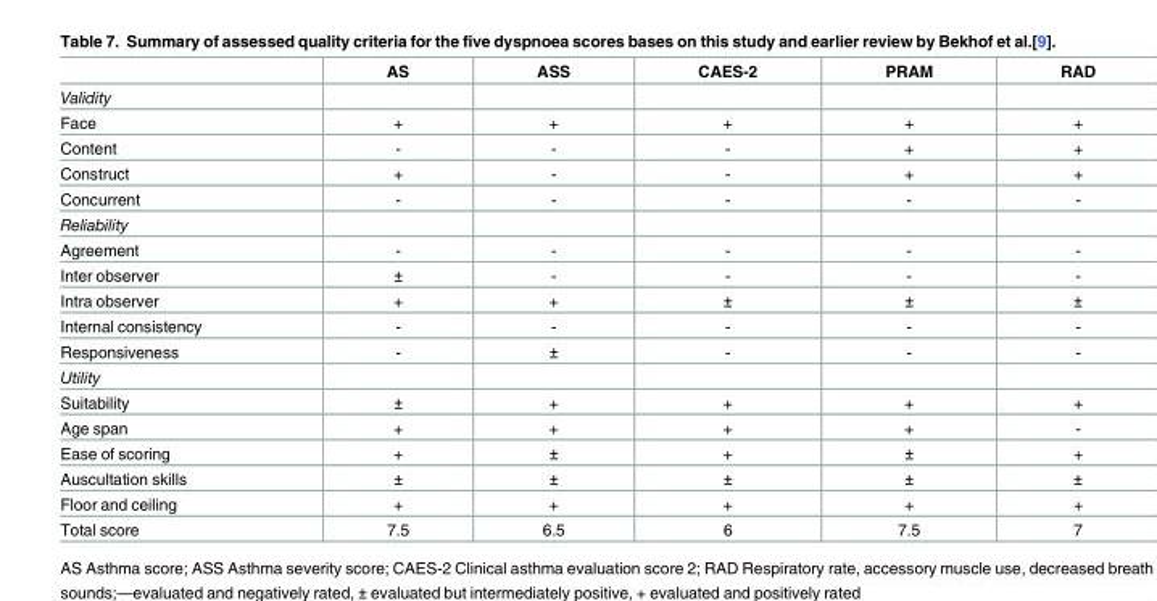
<table><thead><tr><td></td><td>AS</td><td>ASS</td><td>CAES-2</td><td>PRAM</td><td>RAD</td></tr></thead><tbody><tr><td colspan="6">Validity</td></tr><tr><td>Face</td><td>+</td><td>+</td><td>+</td><td>+</td><td>+</td></tr><tr><td>Content</td><td>-</td><td>-</td><td>-</td><td>+</td><td>+</td></tr><tr><td>Construct</td><td>+</td><td>-</td><td>-</td><td>+</td><td>+</td></tr><tr><td>Concurrent</td><td>-</td><td>-</td><td>-</td><td>-</td><td>-</td></tr><tr><td colspan="6">Reliability</td></tr><tr><td>Agreement</td><td>-</td><td>-</td><td>-</td><td>-</td><td>-</td></tr><tr><td>Inter observer</td><td>±</td><td>-</td><td>-</td><td>-</td><td>-</td></tr><tr><td>Intra observer</td><td>+</td><td>+</td><td>±</td><td>±</td><td>±</td></tr><tr><td>Internal consistency</td><td>-</td><td>-</td><td>-</td><td>-</td><td>-</td></tr><tr><td>Responsiveness</td><td>-</td><td>±</td><td>-</td><td>-</td><td>-</td></tr><tr><td colspan="6">Utility</td></tr><tr><td>Suitability</td><td>±</td><td>+</td><td>+</td><td>+</td><td>+</td></tr><tr><td>Age span</td><td>+</td><td>+</td><td>+</td><td>+</td><td>-</td></tr><tr><td>Ease of scoring</td><td>+</td><td>±</td><td>+</td><td>±</td><td>+</td></tr><tr><td>Auscultation skills</td><td>±</td><td>±</td><td>±</td><td>±</td><td>±</td></tr><tr><td>Floor and ceiling</td><td>+</td><td>+</td><td>+</td><td>+</td><td>+</td></tr><tr><td>Total score</td><td>7.5</td><td>6.5</td><td>6</td><td>7.5</td><td>7</td></tr></tbody></table>